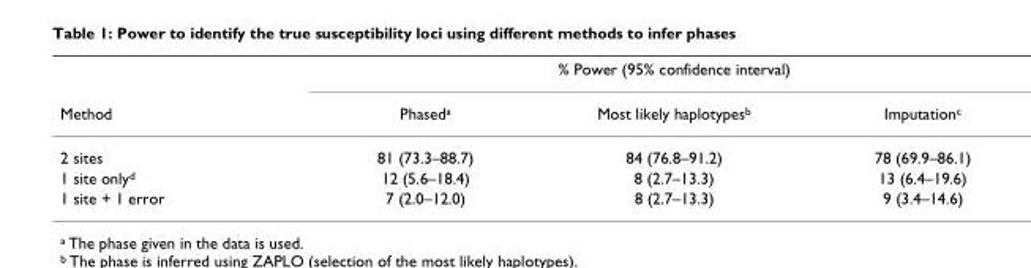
<table><thead><tr><td rowspan="2">Method</td><td colspan="3">% Power (95% confidence interval)</td></tr><tr><td>Phased<sup>a</sup></td><td>Most likely haplotypes<sup>b</sup></td><td>Imputation<sup>c</sup></td></tr></thead><tbody><tr><td>2 sites</td><td>81 (73.3–88.7)</td><td>84 (76.8–91.2)</td><td>78 (69.9–86.1)</td></tr><tr><td>1 site only<sup>d</sup></td><td>12 (5.6–18.4)</td><td>8 (2.7–13.3)</td><td>13 (6.4–19.6)</td></tr><tr><td>1 site + 1 error</td><td>7 (2.0–12.0)</td><td>8 (2.7–13.3)</td><td>9 (3.4–14.6)</td></tr></tbody></table>